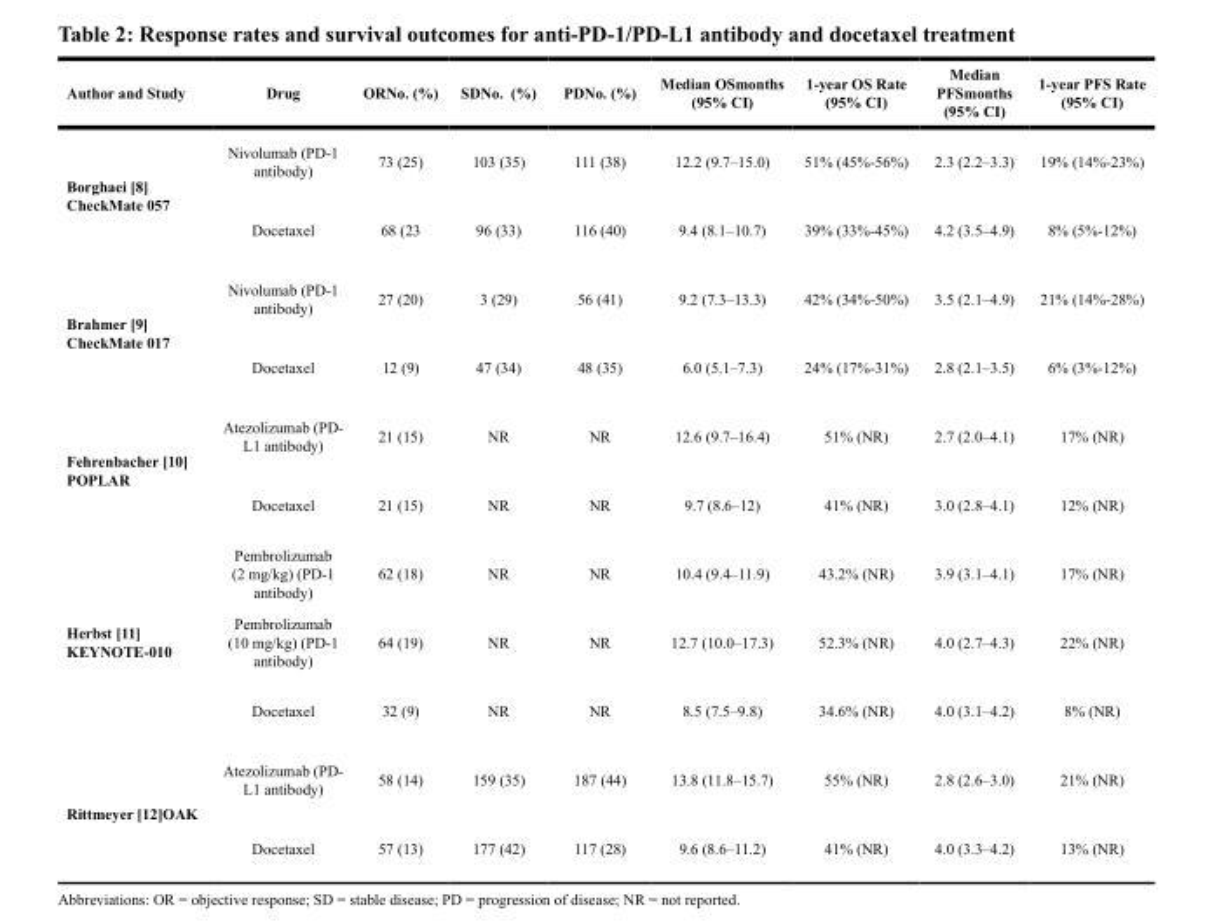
<table><thead><tr><td>Author and Study</td><td>Drug</td><td>ORNo. (%)</td><td>SDNo. (%)</td><td>PDNo. (%)</td><td>Median OSmonths (95% CI)</td><td>1-year OS Rate (95% CI)</td><td>Median PFSmonths (95% CI)</td><td>1-year PFS Rate (95% CI)</td></tr></thead><tbody><tr><td rowspan="2">Borghaei [8] CheckMate 057</td><td>Nivolumab (PD-1 antibody)</td><td>73 (25)</td><td>103 (35)</td><td>111 (38)</td><td>12.2 (9.7–15.0)</td><td>51% (45%-56%)</td><td>2.3 (2.2–3.3)</td><td>19% (14%-23%)</td></tr><tr><td>Docetaxel</td><td>68 (23</td><td>96 (33)</td><td>116 (40)</td><td>9.4 (8.1–10.7)</td><td>39% (33%-45%)</td><td>4.2 (3.5–4.9)</td><td>8% (5%-12%)</td></tr><tr><td rowspan="2">Brahmer [9] CheckMate 017</td><td>Nivolumab (PD-1 antibody)</td><td>27 (20)</td><td>3 (29)</td><td>56 (41)</td><td>9.2 (7.3–13.3)</td><td>42% (34%-50%)</td><td>3.5 (2.1–4.9)</td><td>21% (14%-28%)</td></tr><tr><td>Docetaxel</td><td>12 (9)</td><td>47 (34)</td><td>48 (35)</td><td>6.0 (5.1–7.3)</td><td>24% (17%-31%)</td><td>2.8 (2.1–3.5)</td><td>6% (3%-12%)</td></tr><tr><td rowspan="2">Fehrenbacher [10] POPLAR</td><td>Atezolizumab (PD- L1 antibody)</td><td>21 (15)</td><td>NR</td><td>NR</td><td>12.6 (9.7–16.4)</td><td>51% (NR)</td><td>2.7 (2.0–4.1)</td><td>17% (NR)</td></tr><tr><td>Docetaxel</td><td>21 (15)</td><td>NR</td><td>NR</td><td>9.7 (8.6–12)</td><td>41% (NR)</td><td>3.0 (2.8–4.1)</td><td>12% (NR)</td></tr><tr><td rowspan="3">Herbst [11] KEYNOTE-010</td><td>Pembrolizumab (2 mg/kg) (PD-1 antibody)</td><td>62 (18)</td><td>NR</td><td>NR</td><td>10.4 (9.4–11.9)</td><td>43.2% (NR)</td><td>3.9 (3.1–4.1)</td><td>17% (NR)</td></tr><tr><td>Pembrolizumab (10 mg/kg) (PD-1 antibody)</td><td>64 (19)</td><td>NR</td><td>NR</td><td>12.7 (10.0–17.3)</td><td>52.3% (NR)</td><td>4.0 (2.7–4.3)</td><td>22% (NR)</td></tr><tr><td>Docetaxel</td><td>32 (9)</td><td>NR</td><td>NR</td><td>8.5 (7.5–9.8)</td><td>34.6% (NR)</td><td>4.0 (3.1–4.2)</td><td>8% (NR)</td></tr><tr><td rowspan="2">Rittmeyer [12]OAK</td><td>Atezolizumab (PD- L1 antibody)</td><td>58 (14)</td><td>159 (35)</td><td>187 (44)</td><td>13.8 (11.8–15.7)</td><td>55% (NR)</td><td>2.8 (2.6–3.0)</td><td>21% (NR)</td></tr><tr><td>Docetaxel</td><td>57 (13)</td><td>177 (42)</td><td>117 (28)</td><td>9.6 (8.6–11.2)</td><td>41% (NR)</td><td>4.0 (3.3–4.2)</td><td>13% (NR)</td></tr></tbody></table>